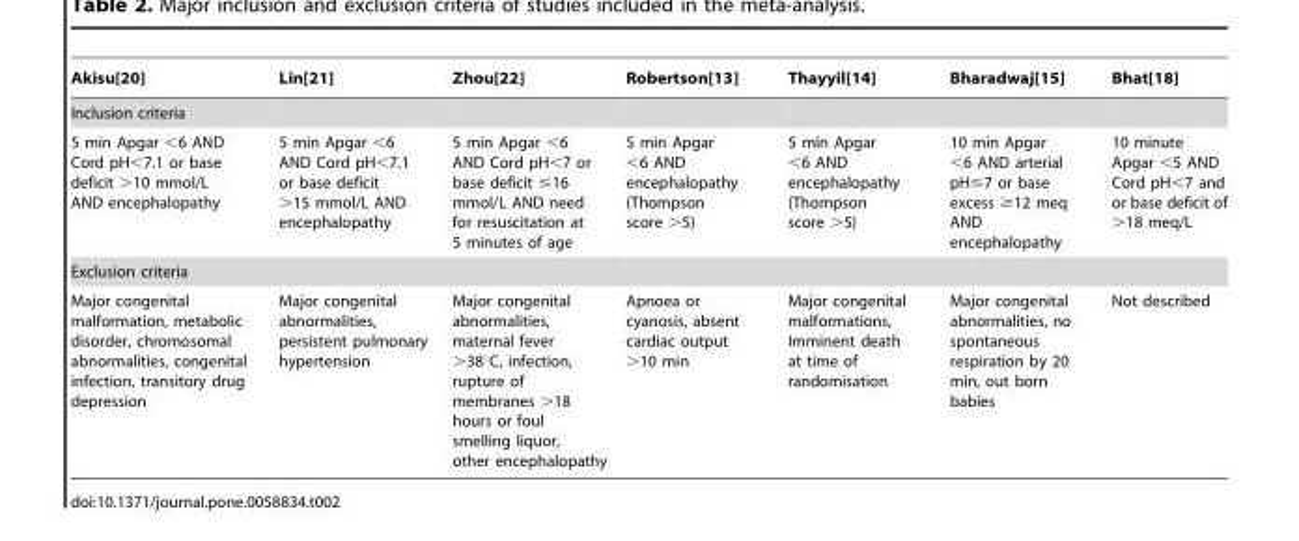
<table><thead><tr><td>Akisu[20]</td><td>Lin[21]</td><td>Zhou[22]</td><td>Robertson[13]</td><td>Thayyil[14]</td><td>Bharadwaj[15]</td><td>Bhat[18]</td></tr></thead><tbody><tr><td colspan="7">Inclusion criteria</td></tr><tr><td>5 min Apgar &lt;6 AND Cord pH&lt;7.1 or base deficit &gt;10 mmol/L AND encephalopathy</td><td>5 min Apgar &lt;6 AND Cord pH&lt;7.1 or base deficit &gt;15 mmol/L AND encephalopathy</td><td>5 min Apgar &lt;6 AND Cord pH&lt;7 or base deficit ≤16 mmol/L AND need for resuscitation at 5 minutes of age</td><td>5 min Apgar &lt;6 AND encephalopathy (Thompson score &gt;5)</td><td>5 min Apgar &lt;6 AND encephalopathy (Thompson score &gt;5)</td><td>10 min Apgar &lt;6 AND arterial pH≤7 or base excess ≥12 meq AND encephalopathy</td><td>10 minute Apgar &lt;5 AND Cord pH&lt;7 and or base deficit of &gt;18 meq/L</td></tr><tr><td colspan="7">Exclusion criteria</td></tr><tr><td>Major congenital malformation, metabolic disorder, chromosomal abnormalities, congenital infection, transitory drug depression</td><td>Major congenital abnormalities, persistent pulmonary hypertension</td><td>Major congenital abnormalities, maternal fever &gt;38°C, infection, rupture of membranes &gt;18 hours or foul smelling liquor, other encephalopathy</td><td>Apnoea or cyanosis, absent cardiac output &gt;10 min</td><td>Major congenital malformations, Imminent death at time of randomisation</td><td>Major congenital abnormalities, no spontaneous respiration by 20 min, out born babies</td><td>Not described</td></tr></tbody></table>